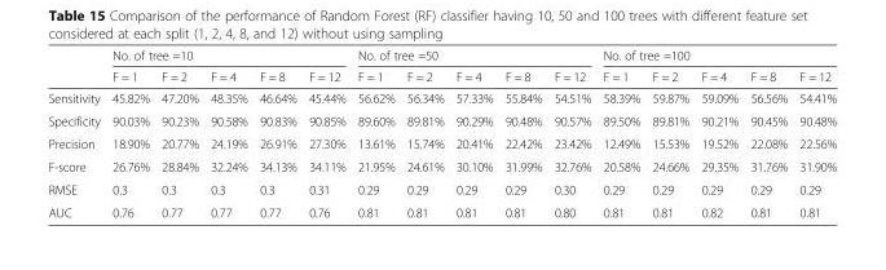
<table><thead><tr><td rowspan="2"></td><td colspan="5">No. of tree =10</td><td colspan="5">No. of tree =50</td><td colspan="5">No. of tree =100</td></tr><tr><td>F = 1</td><td>F = 2</td><td>F = 4</td><td>F = 8</td><td>F = 12</td><td>F = 1</td><td>F = 2</td><td>F = 4</td><td>F = 8</td><td>F = 12</td><td>F = 1</td><td>F = 2</td><td>F = 4</td><td>F = 8</td><td>F = 12</td></tr></thead><tbody><tr><td>Sensitivity</td><td>45.82%</td><td>47.20%</td><td>48.35%</td><td>46.64%</td><td>45.44%</td><td>56.62%</td><td>56.34%</td><td>57.33%</td><td>55.84%</td><td>54.51%</td><td>58.39%</td><td>59.87%</td><td>59.09%</td><td>56.56%</td><td>54.41%</td></tr><tr><td>Specificity</td><td>90.03%</td><td>90.23%</td><td>90.58%</td><td>90.83%</td><td>90.85%</td><td>89.60%</td><td>89.81%</td><td>90.29%</td><td>90.48%</td><td>90.57%</td><td>89.50%</td><td>89.81%</td><td>90.21%</td><td>90.45%</td><td>90.48%</td></tr><tr><td>Precision</td><td>18.90%</td><td>20.77%</td><td>24.19%</td><td>26.91%</td><td>27.30%</td><td>13.61%</td><td>15.74%</td><td>20.41%</td><td>22.42%</td><td>23.42%</td><td>12.49%</td><td>15.53%</td><td>19.52%</td><td>22.08%</td><td>22.56%</td></tr><tr><td>F-score</td><td>26.76%</td><td>28.84%</td><td>32.24%</td><td>34.13%</td><td>34.11%</td><td>21.95%</td><td>24.61%</td><td>30.10%</td><td>31.99%</td><td>32.76%</td><td>20.58%</td><td>24.66%</td><td>29.35%</td><td>31.76%</td><td>31.90%</td></tr><tr><td>RMSE</td><td>0.3</td><td>0.3</td><td>0.3</td><td>0.3</td><td>0.31</td><td>0.29</td><td>0.29</td><td>0.29</td><td>0.29</td><td>0.30</td><td>0.29</td><td>0.29</td><td>0.29</td><td>0.29</td><td>0.29</td></tr><tr><td>AUC</td><td>0.76</td><td>0.77</td><td>0.77</td><td>0.77</td><td>0.76</td><td>0.81</td><td>0.81</td><td>0.81</td><td>0.81</td><td>0.80</td><td>0.81</td><td>0.81</td><td>0.82</td><td>0.81</td><td>0.81</td></tr></tbody></table>